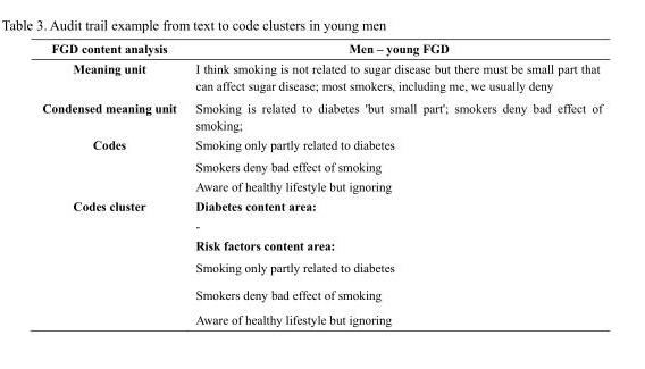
<table><thead><tr><td>FGD content analysis</td><td>Men – young FGD</td></tr></thead><tbody><tr><td>Meaning unit</td><td>I think smoking is not related to sugar disease but there must be small part that can affect sugar disease; most smokers, including me, we usually deny</td></tr><tr><td>Condensed meaning unit</td><td>Smoking is related to diabetes &#x27;but small part&#x27;; smokers deny bad effect of smoking;</td></tr><tr><td rowspan="3">Codes</td><td>Smoking only partly related to diabetes</td></tr><tr><td>Smokers deny bad effect of smoking</td></tr><tr><td>Aware of healthy lifestyle but ignoring</td></tr><tr><td rowspan="6">Codes cluster</td><td>Diabetes content area:</td></tr><tr><td>-</td></tr><tr><td>Risk factors content area:</td></tr><tr><td>Smoking only partly related to diabetes</td></tr><tr><td>Smokers deny bad effect of smoking</td></tr><tr><td>Aware of healthy lifestyle but ignoring</td></tr></tbody></table>